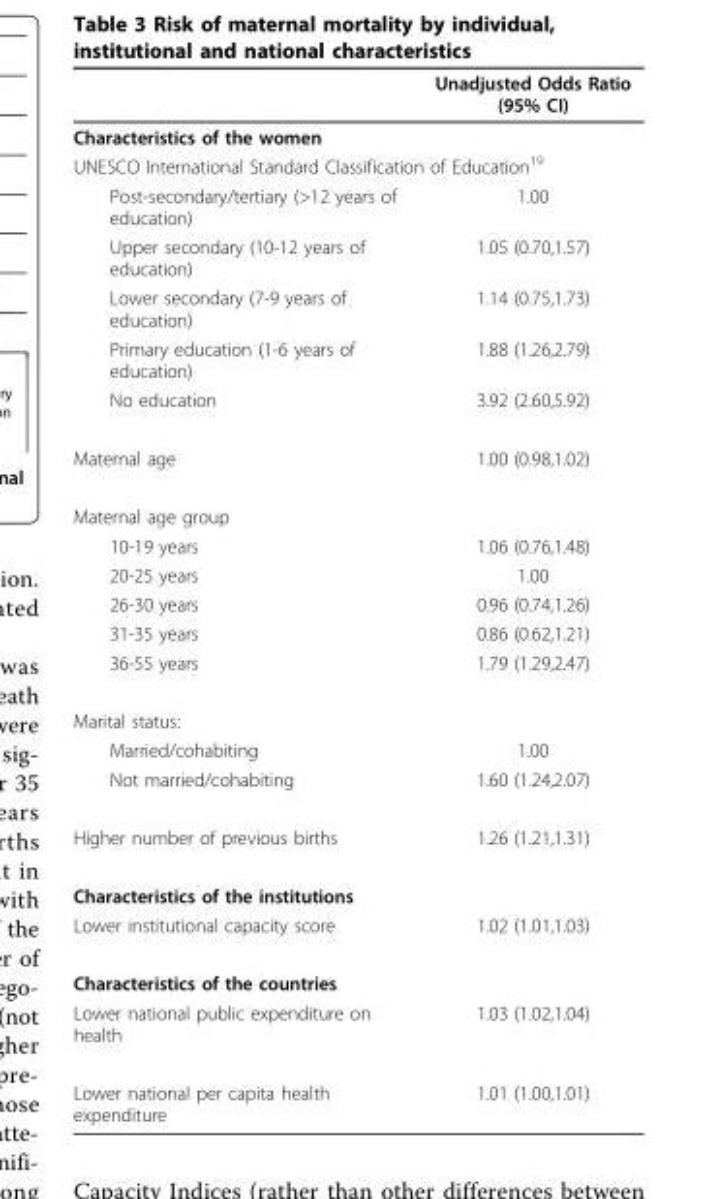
<table><thead><tr><td></td><td>Unadjusted Odds Ratio (95% CI)</td></tr></thead><tbody><tr><td colspan="2">Characteristics of the women</td></tr><tr><td colspan="2">UNESCO International Standard Classification of Education<sup>19</sup></td></tr><tr><td>Post-secondary/tertiary (&gt;12 years of education)</td><td>1.00</td></tr><tr><td>Upper secondary (10-12 years of education)</td><td>1.05 (0.70,1.57)</td></tr><tr><td>Lower secondary (7-9 years of education)</td><td>1.14 (0.75,1.73)</td></tr><tr><td>Primary education (1-6 years of education)</td><td>1.88 (1.26,2.79)</td></tr><tr><td>No education</td><td>3.92 (2.60,5.92)</td></tr><tr><td>Maternal age</td><td>1.00 (0.98,1.02)</td></tr><tr><td colspan="2">Maternal age group</td></tr><tr><td>10-19 years</td><td>1.06 (0.76,1.48)</td></tr><tr><td>20-25 years</td><td>1.00</td></tr><tr><td>26-30 years</td><td>0.96 (0.74,1.26)</td></tr><tr><td>31-35 years</td><td>0.86 (0.62,1.21)</td></tr><tr><td>36-55 years</td><td>1.79 (1.29,2.47)</td></tr><tr><td colspan="2">Marital status:</td></tr><tr><td>Married/cohabiting</td><td>1.00</td></tr><tr><td>Not married/cohabiting</td><td>1.60 (1.24,2.07)</td></tr><tr><td>Higher number of previous births</td><td>1.26 (1.21,1.31)</td></tr><tr><td colspan="2">Characteristics of the institutions</td></tr><tr><td>Lower institutional capacity score</td><td>1.02 (1.01,1.03)</td></tr><tr><td colspan="2">Characteristics of the countries</td></tr><tr><td>Lower national public expenditure on health</td><td>1.03 (1.02,1.04)</td></tr><tr><td>Lower national per capita health expenditure</td><td>1.01 (1.00,1.01)</td></tr></tbody></table>